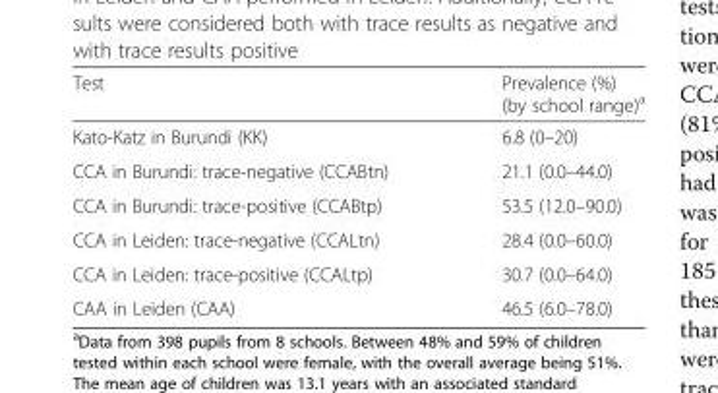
<table><thead><tr><td>Test</td><td>Prevalence (%) (by school range)<sup>a</sup></td></tr></thead><tbody><tr><td>Kato-Katz in Burundi (KK)</td><td>6.8 (0–20)</td></tr><tr><td>CCA in Burundi: trace-negative (CCABtn)</td><td>21.1 (0.0–44.0)</td></tr><tr><td>CCA in Burundi: trace-positive (CCABtp)</td><td>53.5 (12.0–90.0)</td></tr><tr><td>CCA in Leiden: trace-negative (CCALtn)</td><td>28.4 (0.0–60.0)</td></tr><tr><td>CCA in Leiden: trace-positive (CCALtp)</td><td>30.7 (0.0–64.0)</td></tr><tr><td>CAA in Leiden (CAA)</td><td>46.5 (6.0–78.0)</td></tr></tbody></table>